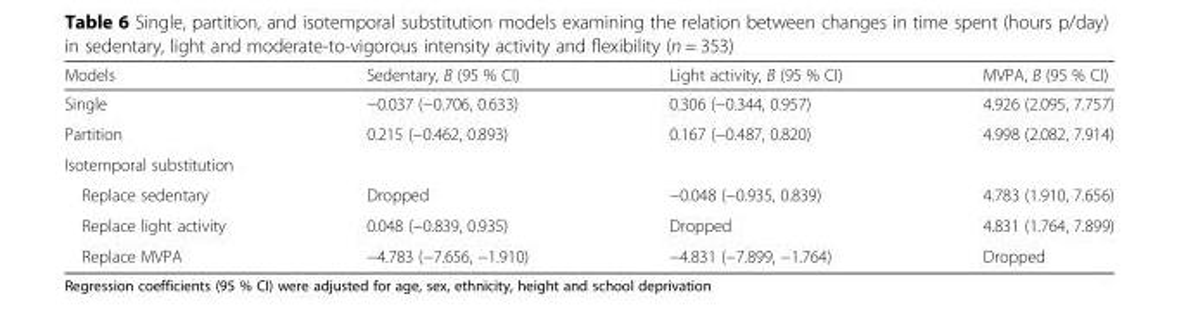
<table><thead><tr><td>Models</td><td>Sedentary, B (95 % CI)</td><td>Light activity, B (95 % CI)</td><td>MVPA, B (95 % CI)</td></tr></thead><tbody><tr><td>Single</td><td>−0.037 (−0.706, 0.633)</td><td>0.306 (−0.344, 0.957)</td><td>4.926 (2.095, 7.757)</td></tr><tr><td>Partition</td><td>0.215 (−0.462, 0.893)</td><td>0.167 (−0.487, 0.820)</td><td>4.998 (2.082, 7.914)</td></tr><tr><td colspan="4">Isotemporal substitution</td></tr><tr><td>Replace sedentary</td><td>Dropped</td><td>−0.048 (−0.935, 0.839)</td><td>4.783 (1.910, 7.656)</td></tr><tr><td>Replace light activity</td><td>0.048 (−0.839, 0.935)</td><td>Dropped</td><td>4.831 (1.764, 7.899)</td></tr><tr><td>Replace MVPA</td><td>−4.783 (−7.656, −1.910)</td><td>−4.831 (−7.899, −1.764)</td><td>Dropped</td></tr></tbody></table>